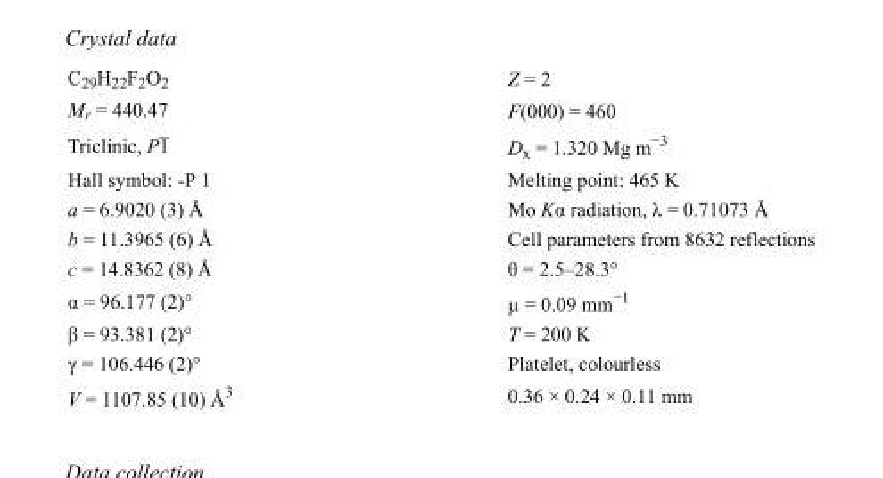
<table><tbody><tr><td>C<sub>29</sub>H<sub>22</sub>F<sub>2</sub>O<sub>2</sub></td><td>Z = 2</td></tr><tr><td>M<sub>r</sub> = 440.47</td><td>F(000) = 460</td></tr><tr><td>Triclinic, P1</td><td>D<sub>x</sub> = 1.320 Mg m<sup>−3</sup></td></tr><tr><td>Hall symbol: -P 1</td><td>Melting point: 465 K</td></tr><tr><td>a = 6.9020 (3) Å</td><td>Mo Kα radiation, λ = 0.71073 Å</td></tr><tr><td>b = 11.3965 (6) Å</td><td>Cell parameters from 8632 reflections</td></tr><tr><td>c = 14.8362 (8) Å</td><td>θ = 2.5–28.3°</td></tr><tr><td>α = 96.177 (2)°</td><td>µ = 0.09 mm<sup>−1</sup></td></tr><tr><td>β = 93.381 (2)°</td><td>T = 200 K</td></tr><tr><td>γ = 106.446 (2)°</td><td>Platelet, colourless</td></tr><tr><td>V = 1107.85 (10) Å<sup>3</sup></td><td>0.36 × 0.24 × 0.11 mm</td></tr></tbody></table>